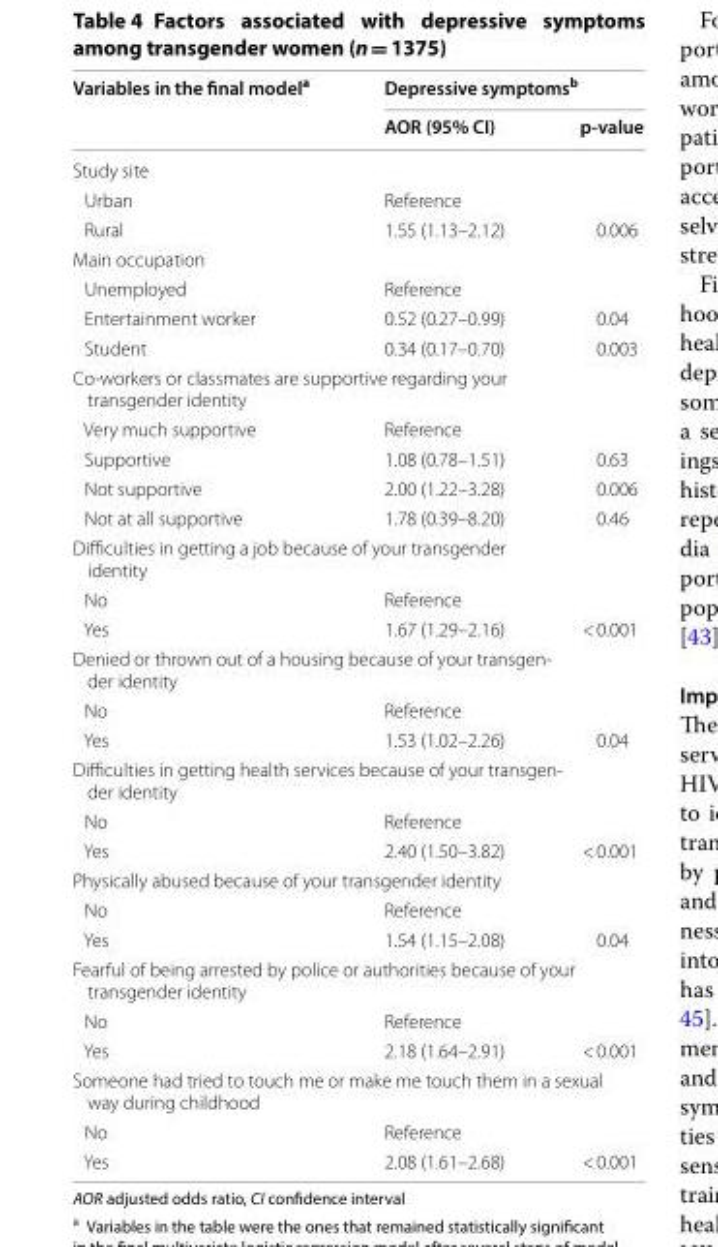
<table><thead><tr><td rowspan="2">Variables in the final model<sup>a</sup></td><td colspan="2">Depressive symptoms<sup>b</sup></td></tr><tr><td>AOR (95% CI)</td><td>p‑value</td></tr></thead><tbody><tr><td colspan="3">Study site</td></tr><tr><td>Urban</td><td>Reference</td><td></td></tr><tr><td>Rural</td><td>1.55 (1.13–2.12)</td><td>0.006</td></tr><tr><td colspan="3">Main occupation</td></tr><tr><td>Unemployed</td><td>Reference</td><td></td></tr><tr><td>Entertainment worker</td><td>0.52 (0.27–0.99)</td><td>0.04</td></tr><tr><td>Student</td><td>0.34 (0.17–0.70)</td><td>0.003</td></tr><tr><td colspan="3">Co-workers or classmates are supportive regarding your transgender identity</td></tr><tr><td>Very much supportive</td><td>Reference</td><td></td></tr><tr><td>Supportive</td><td>1.08 (0.78–1.51)</td><td>0.63</td></tr><tr><td>Not supportive</td><td>2.00 (1.22–3.28)</td><td>0.006</td></tr><tr><td>Not at all supportive</td><td>1.78 (0.39–8.20)</td><td>0.46</td></tr><tr><td colspan="3">Difficulties in getting a job because of your transgender identity</td></tr><tr><td>No</td><td>Reference</td><td></td></tr><tr><td>Yes</td><td>1.67 (1.29–2.16)</td><td>&lt; 0.001</td></tr><tr><td colspan="3">Denied or thrown out of a housing because of your transgen- der identity</td></tr><tr><td>No</td><td>Reference</td><td></td></tr><tr><td>Yes</td><td>1.53 (1.02–2.26)</td><td>0.04</td></tr><tr><td colspan="3">Difficulties in getting health services because of your transgen- der identity</td></tr><tr><td>No</td><td>Reference</td><td></td></tr><tr><td>Yes</td><td>2.40 (1.50–3.82)</td><td>&lt; 0.001</td></tr><tr><td colspan="3">Physically abused because of your transgender identity</td></tr><tr><td>No</td><td>Reference</td><td></td></tr><tr><td>Yes</td><td>1.54 (1.15–2.08)</td><td>0.04</td></tr><tr><td colspan="3">Fearful of being arrested by police or authorities because of your transgender identity</td></tr><tr><td>No</td><td>Reference</td><td></td></tr><tr><td>Yes</td><td>2.18 (1.64–2.91)</td><td>&lt; 0.001</td></tr><tr><td colspan="3">Someone had tried to touch me or make me touch them in a sexual way during childhood</td></tr><tr><td>No</td><td>Reference</td><td></td></tr><tr><td>Yes</td><td>2.08 (1.61–2.68)</td><td>&lt; 0.001</td></tr></tbody></table>